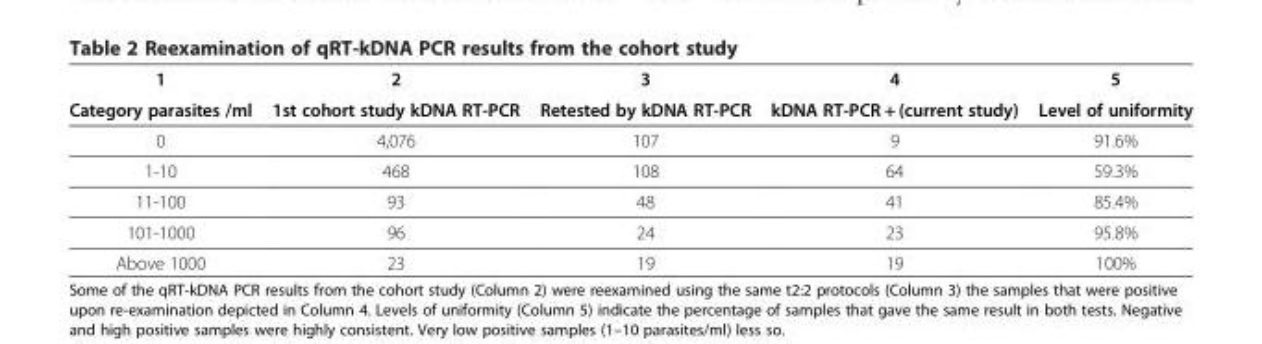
<table><thead><tr><td rowspan="2">1 Category parasites /ml</td><td rowspan="2">2 1st cohort study kDNA RT-PCR</td><td rowspan="2">3 Retested by kDNA RT-PCR</td><td rowspan="2">4 kDNA RT-PCR + (current study)</td><td rowspan="2">5 Level of uniformity</td></tr><tr></tr></thead><tbody><tr><td>0</td><td>4,076</td><td>107</td><td>9</td><td>91.6%</td></tr><tr><td>1-10</td><td>468</td><td>108</td><td>64</td><td>59.3%</td></tr><tr><td>11-100</td><td>93</td><td>48</td><td>41</td><td>85.4%</td></tr><tr><td>101-1000</td><td>96</td><td>24</td><td>23</td><td>95.8%</td></tr><tr><td>Above 1000</td><td>23</td><td>19</td><td>19</td><td>100%</td></tr></tbody></table>